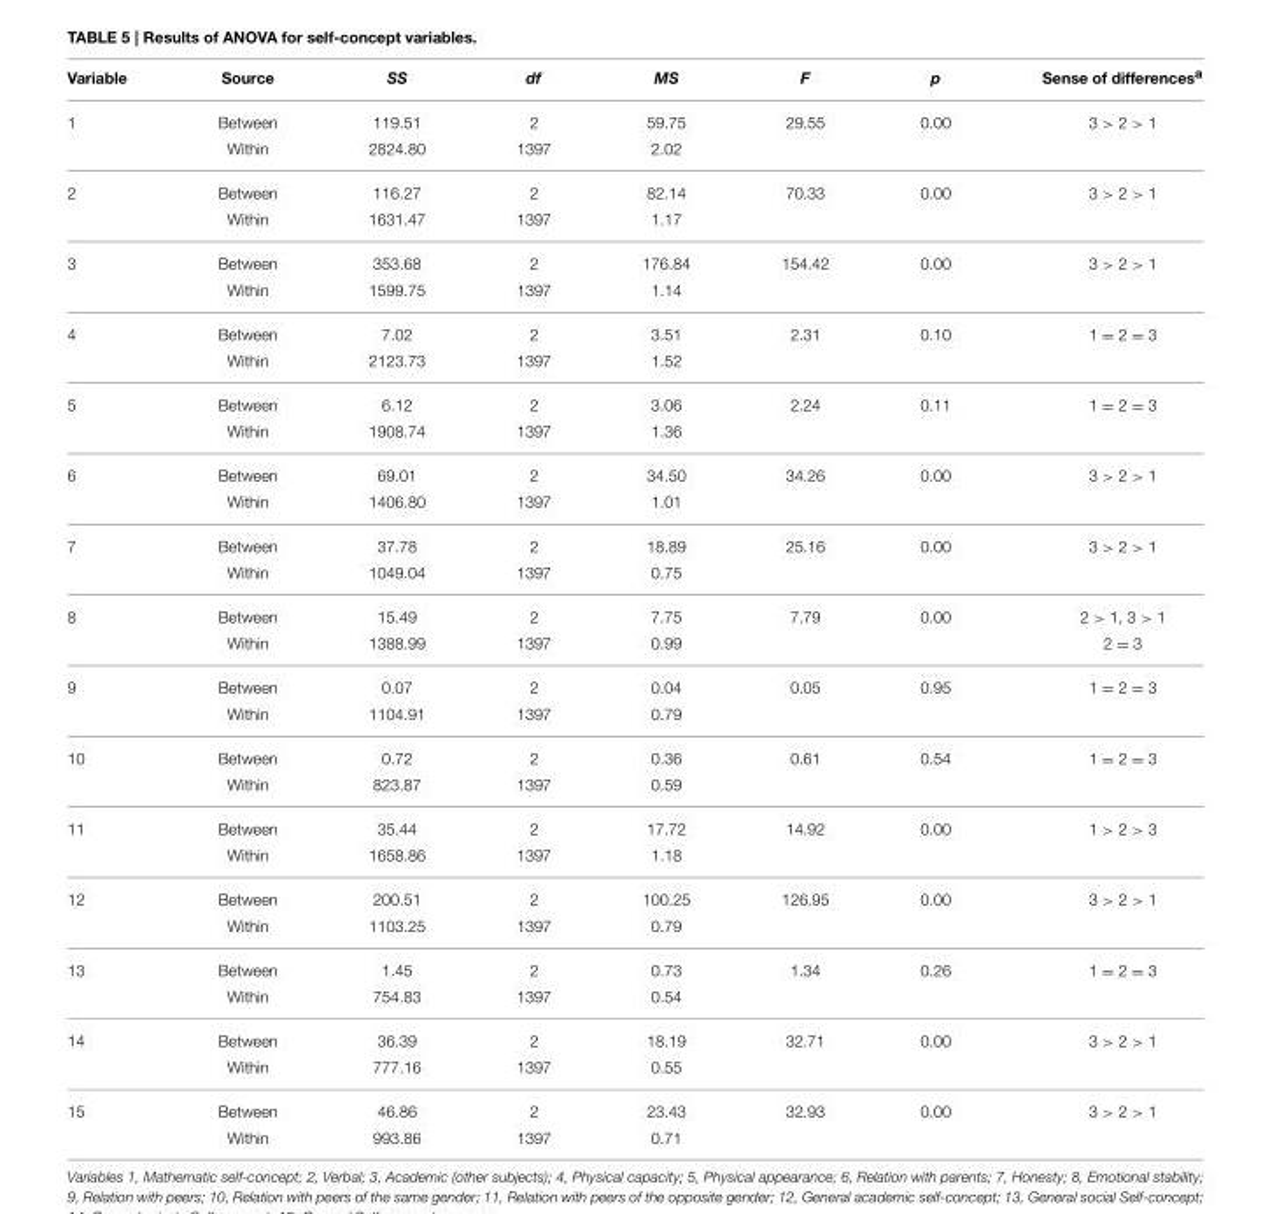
<table><thead><tr><td>Variable</td><td>Source</td><td>SS</td><td>df</td><td>MS</td><td>F</td><td>p</td><td>Sense of differences<sup>a</sup></td></tr></thead><tbody><tr><td rowspan="2">1</td><td>Between</td><td>119.51</td><td>2</td><td>59.75</td><td>29.55</td><td>0.00</td><td>3 &gt; 2 &gt; 1</td></tr><tr><td>Within</td><td>2824.80</td><td>1397</td><td>2.02</td><td></td><td></td><td></td></tr><tr><td rowspan="2">2</td><td>Between</td><td>116.27</td><td>2</td><td>82.14</td><td>70.33</td><td>0.00</td><td>3 &gt; 2 &gt; 1</td></tr><tr><td>Within</td><td>1631.47</td><td>1397</td><td>1.17</td><td></td><td></td><td></td></tr><tr><td rowspan="2">3</td><td>Between</td><td>353.68</td><td>2</td><td>176.84</td><td>154.42</td><td>0.00</td><td>3 &gt; 2 &gt; 1</td></tr><tr><td>Within</td><td>1599.75</td><td>1397</td><td>1.14</td><td></td><td></td><td></td></tr><tr><td rowspan="2">4</td><td>Between</td><td>7.02</td><td>2</td><td>3.51</td><td>2.31</td><td>0.10</td><td>1 = 2 = 3</td></tr><tr><td>Within</td><td>2123.73</td><td>1397</td><td>1.52</td><td></td><td></td><td></td></tr><tr><td rowspan="2">5</td><td>Between</td><td>6.12</td><td>2</td><td>3.06</td><td>2.24</td><td>0.11</td><td>1 = 2 = 3</td></tr><tr><td>Within</td><td>1908.74</td><td>1397</td><td>1.36</td><td></td><td></td><td></td></tr><tr><td rowspan="2">6</td><td>Between</td><td>69.01</td><td>2</td><td>34.50</td><td>34.26</td><td>0.00</td><td>3 &gt; 2 &gt; 1</td></tr><tr><td>Within</td><td>1406.80</td><td>1397</td><td>1.01</td><td></td><td></td><td></td></tr><tr><td rowspan="2">7</td><td>Between</td><td>37.78</td><td>2</td><td>18.89</td><td>25.16</td><td>0.00</td><td>3 &gt; 2 &gt; 1</td></tr><tr><td>Within</td><td>1049.04</td><td>1397</td><td>0.75</td><td></td><td></td><td></td></tr><tr><td rowspan="2">8</td><td>Between</td><td>15.49</td><td>2</td><td>7.75</td><td>7.79</td><td>0.00</td><td>2 &gt; 1, 3 &gt; 1</td></tr><tr><td>Within</td><td>1388.99</td><td>1397</td><td>0.99</td><td></td><td></td><td>2 = 3</td></tr><tr><td rowspan="2">9</td><td>Between</td><td>0.07</td><td>2</td><td>0.04</td><td>0.05</td><td>0.95</td><td>1 = 2 = 3</td></tr><tr><td>Within</td><td>1104.91</td><td>1397</td><td>0.79</td><td></td><td></td><td></td></tr><tr><td rowspan="2">10</td><td>Between</td><td>0.72</td><td>2</td><td>0.36</td><td>0.61</td><td>0.54</td><td>1 = 2 = 3</td></tr><tr><td>Within</td><td>823.87</td><td>1397</td><td>0.59</td><td></td><td></td><td></td></tr><tr><td rowspan="2">11</td><td>Between</td><td>35.44</td><td>2</td><td>17.72</td><td>14.92</td><td>0.00</td><td>1 &gt; 2 &gt; 3</td></tr><tr><td>Within</td><td>1658.86</td><td>1397</td><td>1.18</td><td></td><td></td><td></td></tr><tr><td rowspan="2">12</td><td>Between</td><td>200.51</td><td>2</td><td>100.25</td><td>126.95</td><td>0.00</td><td>3 &gt; 2 &gt; 1</td></tr><tr><td>Within</td><td>1103.25</td><td>1397</td><td>0.79</td><td></td><td></td><td></td></tr><tr><td rowspan="2">13</td><td>Between</td><td>1.45</td><td>2</td><td>0.73</td><td>1.34</td><td>0.26</td><td>1 = 2 = 3</td></tr><tr><td>Within</td><td>754.83</td><td>1397</td><td>0.54</td><td></td><td></td><td></td></tr><tr><td rowspan="2">14</td><td>Between</td><td>36.39</td><td>2</td><td>18.19</td><td>32.71</td><td>0.00</td><td>3 &gt; 2 &gt; 1</td></tr><tr><td>Within</td><td>777.16</td><td>1397</td><td>0.55</td><td></td><td></td><td></td></tr><tr><td rowspan="2">15</td><td>Between</td><td>46.86</td><td>2</td><td>23.43</td><td>32.93</td><td>0.00</td><td>3 &gt; 2 &gt; 1</td></tr><tr><td>Within</td><td>993.86</td><td>1397</td><td>0.71</td><td></td><td></td><td></td></tr></tbody></table>